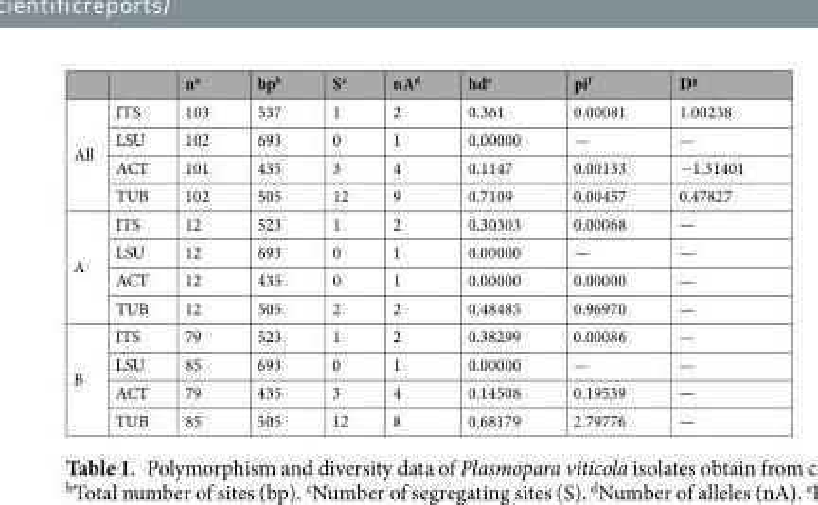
<table><thead><tr><td></td><td></td><td>n<sup>a</sup></td><td>bp<sup>b</sup></td><td>S<sup>c</sup></td><td>nA<sup>d</sup></td><td>hd<sup>e</sup></td><td>pi<sup>f</sup></td><td>D<sup>g</sup></td></tr></thead><tbody><tr><td rowspan="4">All</td><td>ITS</td><td>103</td><td>537</td><td>1</td><td>2</td><td>0.361</td><td>0.00081</td><td>1.00238</td></tr><tr><td>LSU</td><td>102</td><td>693</td><td>0</td><td>1</td><td>0.00000</td><td>—</td><td>—</td></tr><tr><td>ACT</td><td>101</td><td>435</td><td>3</td><td>4</td><td>0.1147</td><td>0.00133</td><td>−1.31401</td></tr><tr><td>TUB</td><td>102</td><td>505</td><td>12</td><td>9</td><td>0.7109</td><td>0.00457</td><td>0.47827</td></tr><tr><td rowspan="4">A</td><td>ITS</td><td>12</td><td>523</td><td>1</td><td>2</td><td>0.30303</td><td>0.00068</td><td>—</td></tr><tr><td>LSU</td><td>12</td><td>693</td><td>0</td><td>1</td><td>0.00000</td><td>—</td><td>—</td></tr><tr><td>ACT</td><td>12</td><td>435</td><td>0</td><td>1</td><td>0.00000</td><td>0.00000</td><td>—</td></tr><tr><td>TUB</td><td>12</td><td>505</td><td>2</td><td>2</td><td>0.48485</td><td>0.96970</td><td>—</td></tr><tr><td rowspan="4">B</td><td>ITS</td><td>79</td><td>523</td><td>1</td><td>2</td><td>0.38299</td><td>0.00086</td><td>—</td></tr><tr><td>LSU</td><td>85</td><td>693</td><td>0</td><td>1</td><td>0.00000</td><td>—</td><td>—</td></tr><tr><td>ACT</td><td>79</td><td>435</td><td>3</td><td>4</td><td>0.14508</td><td>0.19539</td><td>—</td></tr><tr><td>TUB</td><td>85</td><td>505</td><td>12</td><td>8</td><td>0.68179</td><td>2.79776</td><td>—</td></tr></tbody></table>